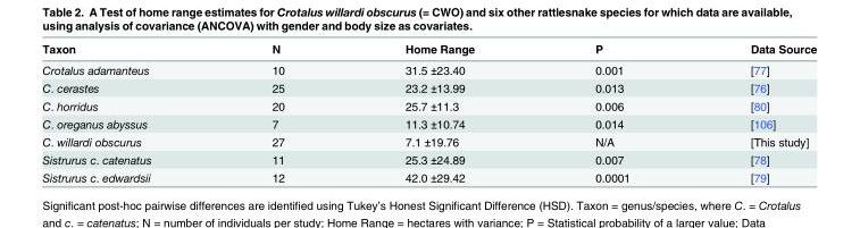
<table><thead><tr><td>Taxon</td><td>N</td><td>Home Range</td><td>P</td><td>Data Source</td></tr></thead><tbody><tr><td>Crotalus adamanteus</td><td>10</td><td>31.5 ±23.40</td><td>0.001</td><td>[77]</td></tr><tr><td>C. cerastes</td><td>25</td><td>23.2 ±13.99</td><td>0.013</td><td>[76]</td></tr><tr><td>C. horridus</td><td>20</td><td>25.7 ±11.3</td><td>0.006</td><td>[80]</td></tr><tr><td>C. oreganus abyssus</td><td>7</td><td>11.3 ±10.74</td><td>0.014</td><td>[106]</td></tr><tr><td>C. willardi obscurus</td><td>27</td><td>7.1 ±19.76</td><td>N/A</td><td>[This study]</td></tr><tr><td>Sistrurus c. catenatus</td><td>11</td><td>25.3 ±24.89</td><td>0.007</td><td>[78]</td></tr><tr><td>Sistrurus c. edwardsii</td><td>12</td><td>42.0 ±29.42</td><td>0.0001</td><td>[79]</td></tr></tbody></table>